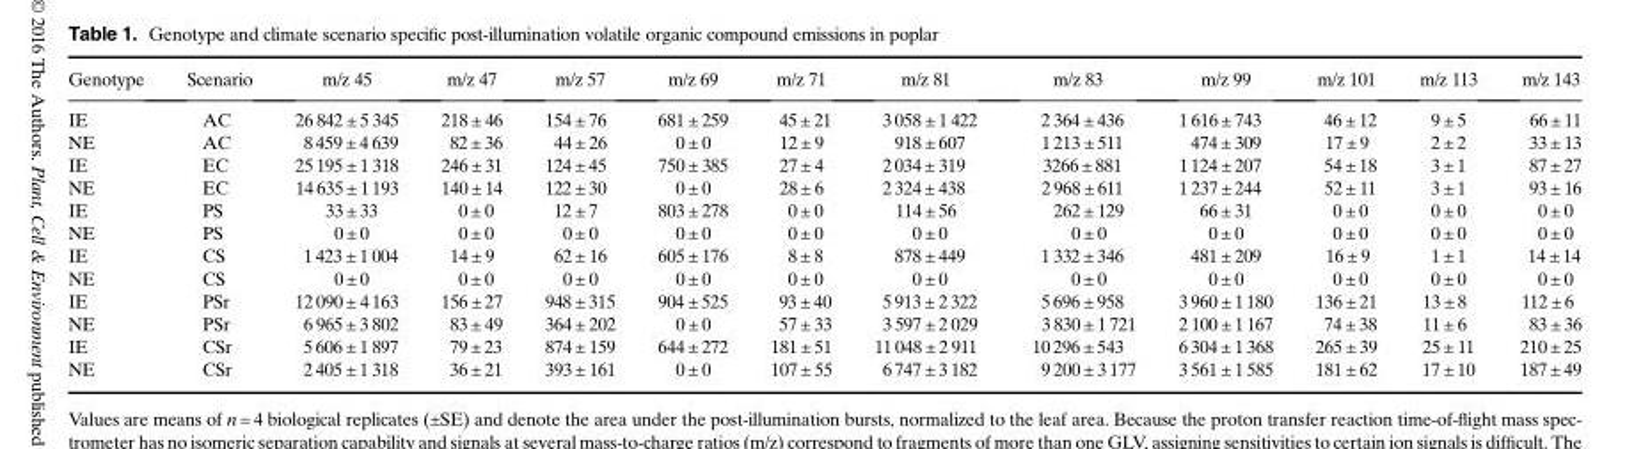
<table><thead><tr><td>Genotype</td><td>Scenario</td><td>m/z 45</td><td>m/z 47</td><td>m/z 57</td><td>m/z 69</td><td>m/z 71</td><td>m/z 81</td><td>m/z 83</td><td>m/z 99</td><td>m/z 101</td><td>m/z 113</td><td>m/z 143</td></tr></thead><tbody><tr><td>IE</td><td>AC</td><td>26 842 ± 5 345</td><td>218 ± 46</td><td>154 ± 76</td><td>681 ± 259</td><td>45 ± 21</td><td>3 058 ± 1 422</td><td>2 364 ± 436</td><td>1 616 ± 743</td><td>46 ± 12</td><td>9 ± 5</td><td>66 ± 11</td></tr><tr><td>NE</td><td>AC</td><td>8 459 ± 4 639</td><td>82 ± 36</td><td>44 ± 26</td><td>0 ± 0</td><td>12 ± 9</td><td>918 ± 607</td><td>1 213 ± 511</td><td>474 ± 309</td><td>17 ± 9</td><td>2 ± 2</td><td>33 ± 13</td></tr><tr><td>IE</td><td>EC</td><td>25 195 ± 1 318</td><td>246 ± 31</td><td>124 ± 45</td><td>750 ± 385</td><td>27 ± 4</td><td>2 034 ± 319</td><td>3266 ± 881</td><td>1124 ± 207</td><td>54 ± 18</td><td>3 ± 1</td><td>87 ± 27</td></tr><tr><td>NE</td><td>EC</td><td>14 635 ± 1193</td><td>140 ± 14</td><td>122 ± 30</td><td>0 ± 0</td><td>28 ± 6</td><td>2 324 ± 438</td><td>2 968 ± 611</td><td>1 237 ± 244</td><td>52 ± 11</td><td>3 ± 1</td><td>93 ± 16</td></tr><tr><td>IE</td><td>PS</td><td>33 ± 33</td><td>0 ± 0</td><td>12 ± 7</td><td>803 ± 278</td><td>0 ± 0</td><td>114 ± 56</td><td>262 ± 129</td><td>66 ± 31</td><td>0 ± 0</td><td>0 ± 0</td><td>0 ± 0</td></tr><tr><td>NE</td><td>PS</td><td>0 ± 0</td><td>0 ± 0</td><td>0 ± 0</td><td>0 ± 0</td><td>0 ± 0</td><td>0 ± 0</td><td>0 ± 0</td><td>0 ± 0</td><td>0 ± 0</td><td>0 ± 0</td><td>0 ± 0</td></tr><tr><td>IE</td><td>CS</td><td>1 423 ± 1 004</td><td>14 ± 9</td><td>62 ± 16</td><td>605 ± 176</td><td>8 ± 8</td><td>878 ± 449</td><td>1 332 ± 346</td><td>481 ± 209</td><td>16 ± 9</td><td>1 ± 1</td><td>14 ± 14</td></tr><tr><td>NE</td><td>CS</td><td>0 ± 0</td><td>0 ± 0</td><td>0 ± 0</td><td>0 ± 0</td><td>0 ± 0</td><td>0 ± 0</td><td>0 ± 0</td><td>0 ± 0</td><td>0 ± 0</td><td>0 ± 0</td><td>0 ± 0</td></tr><tr><td>IE</td><td>PSr</td><td>12 090 ± 4 163</td><td>156 ± 27</td><td>948 ± 315</td><td>904 ± 525</td><td>93 ± 40</td><td>5 913 ± 2 322</td><td>5 696 ± 958</td><td>3 960 ± 1180</td><td>136 ± 21</td><td>13 ± 8</td><td>112 ± 6</td></tr><tr><td>NE</td><td>PSr</td><td>6 965 ± 3 802</td><td>83 ± 49</td><td>364 ± 202</td><td>0 ± 0</td><td>57 ± 33</td><td>3 597 ± 2 029</td><td>3 830 ± 1 721</td><td>2 100 ± 1167</td><td>74 ± 38</td><td>11 ± 6</td><td>83 ± 36</td></tr><tr><td>IE</td><td>CSr</td><td>5 606 ± 1 897</td><td>79 ± 23</td><td>874 ± 159</td><td>644 ± 272</td><td>181 ± 51</td><td>11 048 ± 2 911</td><td>10 296 ± 543</td><td>6 304 ± 1 368</td><td>265 ± 39</td><td>25 ± 11</td><td>210 ± 25</td></tr><tr><td>NE</td><td>CSr</td><td>2 405 ± 1 318</td><td>36 ± 21</td><td>393 ± 161</td><td>0 ± 0</td><td>107 ± 55</td><td>6 747 ± 3 182</td><td>9 200 ± 3 177</td><td>3 561 ± 1 585</td><td>181 ± 62</td><td>17 ± 10</td><td>187 ± 49</td></tr></tbody></table>